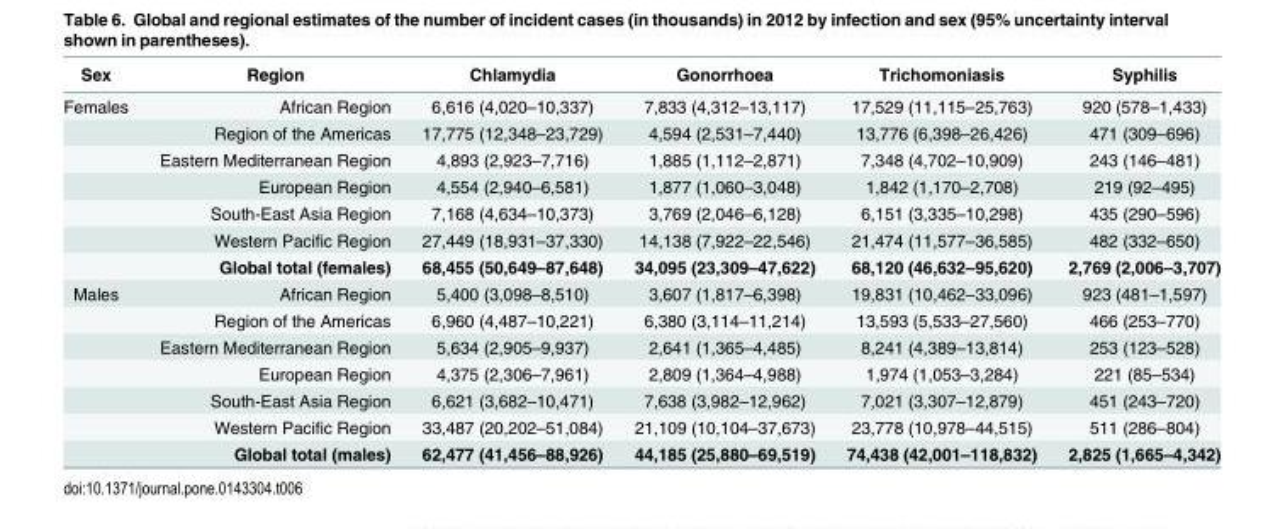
<table><thead><tr><td>Sex</td><td>Region</td><td>Chlamydia</td><td>Gonorrhoea</td><td>Trichomoniasis</td><td>Syphilis</td></tr></thead><tbody><tr><td rowspan="7">Females</td><td>African Region</td><td>6,616 (4,020–10,337)</td><td>7,833 (4,312–13,117)</td><td>17,529 (11,115–25,763)</td><td>920 (578–1,433)</td></tr><tr><td>Region of the Americas</td><td>17,775 (12,348–23,729)</td><td>4,594 (2,531–7,440)</td><td>13,776 (6,398–26,426)</td><td>471 (309–696)</td></tr><tr><td>Eastern Mediterranean Region</td><td>4,893 (2,923–7,716)</td><td>1,885 (1,112–2,871)</td><td>7,348 (4,702–10,909)</td><td>243 (146–481)</td></tr><tr><td>European Region</td><td>4,554 (2,940–6,581)</td><td>1,877 (1,060–3,048)</td><td>1,842 (1,170–2,708)</td><td>219 (92–495)</td></tr><tr><td>South-East Asia Region</td><td>7,168 (4,634–10,373)</td><td>3,769 (2,046–6,128)</td><td>6,151 (3,335–10,298)</td><td>435 (290–596)</td></tr><tr><td>Western Pacific Region</td><td>27,449 (18,931–37,330)</td><td>14,138 (7,922–22,546)</td><td>21,474 (11,577–36,585)</td><td>482 (332–650)</td></tr><tr><td>Global total (females)</td><td>68,455 (50,649–87,648)</td><td>34,095 (23,309–47,622)</td><td>68,120 (46,632–95,620)</td><td>2,769 (2,006–3,707)</td></tr><tr><td rowspan="7">Males</td><td>African Region</td><td>5,400 (3,098–8,510)</td><td>3,607 (1,817–6,398)</td><td>19,831 (10,462–33,096)</td><td>923 (481–1,597)</td></tr><tr><td>Region of the Americas</td><td>6,960 (4,487–10,221)</td><td>6,380 (3,114–11,214)</td><td>13,593 (5,533–27,560)</td><td>466 (253–770)</td></tr><tr><td>Eastern Mediterranean Region</td><td>5,634 (2,905–9,937)</td><td>2,641 (1,365–4,485)</td><td>8,241 (4,389–13,814)</td><td>253 (123–528)</td></tr><tr><td>European Region</td><td>4,375 (2,306–7,961)</td><td>2,809 (1,364–4,988)</td><td>1,974 (1,053–3,284)</td><td>221 (85–534)</td></tr><tr><td>South-East Asia Region</td><td>6,621 (3,682–10,471)</td><td>7,638 (3,982–12,962)</td><td>7,021 (3,307–12,879)</td><td>451 (243–720)</td></tr><tr><td>Western Pacific Region</td><td>33,487 (20,202–51,084)</td><td>21,109 (10,104–37,673)</td><td>23,778 (10,978–44,515)</td><td>511 (286–804)</td></tr><tr><td>Global total (males)</td><td>62,477 (41,456–88,926)</td><td>44,185 (25,880–69,519)</td><td>74,438 (42,001–118,832)</td><td>2,825 (1,665–4,342)</td></tr></tbody></table>